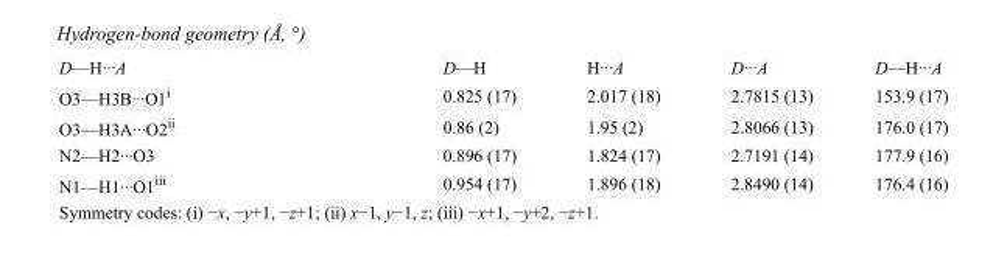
<table><tbody><tr><td>D—H···A</td><td>D—H</td><td>H···A</td><td>D···A</td><td>D—H···A</td></tr><tr><td>O3—H3B···O1<sup>i</sup></td><td>0.825 (17)</td><td>2.017 (18)</td><td>2.7815 (13)</td><td>153.9 (17)</td></tr><tr><td>O3—H3A···O2<sup>ii</sup></td><td>0.86 (2)</td><td>1.95 (2)</td><td>2.8066 (13)</td><td>176.0 (17)</td></tr><tr><td>N2—H2···O3</td><td>0.896 (17)</td><td>1.824 (17)</td><td>2.7191 (14)</td><td>177.9 (16)</td></tr><tr><td>N1—H1···O1<sup>iii</sup></td><td>0.954 (17)</td><td>1.896 (18)</td><td>2.8490 (14)</td><td>176.4 (16)</td></tr></tbody></table>